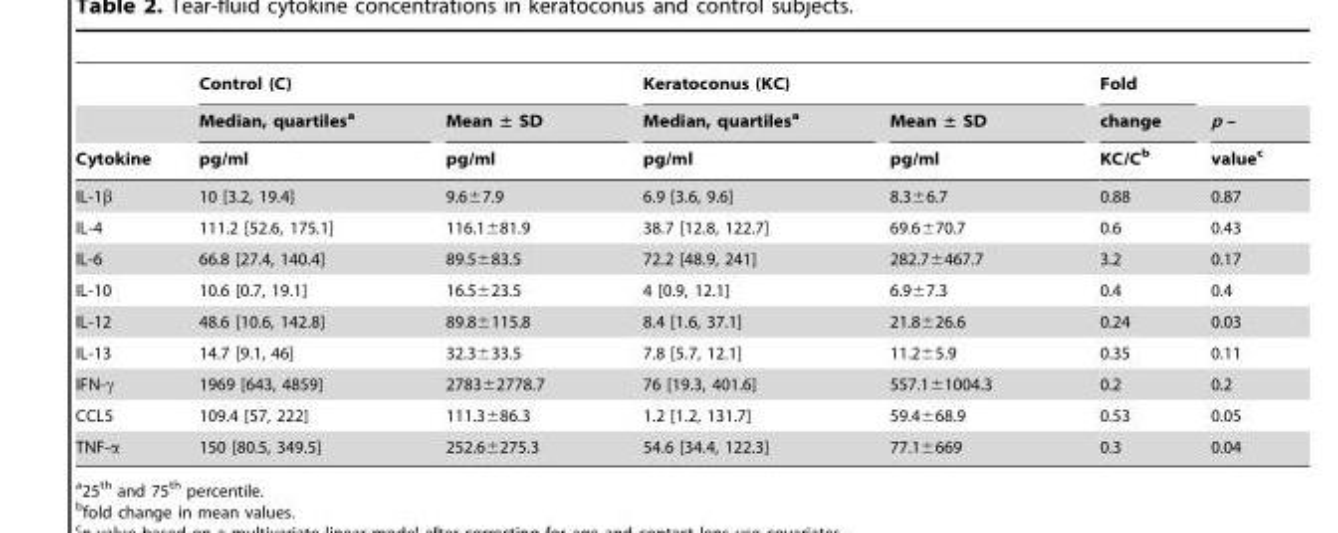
<table><thead><tr><td rowspan="3">Cytokine</td><td colspan="2">Control (C)</td><td colspan="2">Keratoconus (KC)</td><td rowspan="3">Fold change KC/C<sup>b</sup></td><td rowspan="3">p – value<sup>c</sup></td></tr><tr><td rowspan="2">Median, quartiles<sup>a</sup> pg/ml</td><td rowspan="2">Mean ± SD pg/ml</td><td rowspan="2">Median, quartiles<sup>a</sup> pg/ml</td><td rowspan="2">Mean ± SD pg/ml</td></tr><tr></tr></thead><tbody><tr><td>IL-1β</td><td>10 [3.2, 19.4]</td><td>9.6±7.9</td><td>6.9 [3.6, 9.6]</td><td>8.3±6.7</td><td>0.88</td><td>0.87</td></tr><tr><td>IL-4</td><td>111.2 [52.6, 175.1]</td><td>116.1±81.9</td><td>38.7 [12.8, 122.7]</td><td>69.6±70.7</td><td>0.6</td><td>0.43</td></tr><tr><td>IL-6</td><td>66.8 [27.4, 140.4]</td><td>89.5±83.5</td><td>72.2 [48.9, 241]</td><td>282.7±467.7</td><td>3.2</td><td>0.17</td></tr><tr><td>IL-10</td><td>10.6 [0.7, 19.1]</td><td>16.5±23.5</td><td>4 [0.9, 12.1]</td><td>6.9±7.3</td><td>0.4</td><td>0.4</td></tr><tr><td>IL-12</td><td>48.6 [10.6, 142.8]</td><td>89.8±115.8</td><td>8.4 [1.6, 37.1]</td><td>21.8±26.6</td><td>0.24</td><td>0.03</td></tr><tr><td>IL-13</td><td>14.7 [9.1, 46]</td><td>32.3±33.5</td><td>7.8 [5.7, 12.1]</td><td>11.2±5.9</td><td>0.35</td><td>0.11</td></tr><tr><td>IFN-γ</td><td>1969 [643, 4859]</td><td>2783±2778.7</td><td>76 [19.3, 401.6]</td><td>557.1±1004.3</td><td>0.2</td><td>0.2</td></tr><tr><td>CCL5</td><td>109.4 [57, 222]</td><td>111.3±86.3</td><td>1.2 [1.2, 131.7]</td><td>59.4±68.9</td><td>0.53</td><td>0.05</td></tr><tr><td>TNF-α</td><td>150 [80.5, 349.5]</td><td>252.6±275.3</td><td>54.6 [34.4, 122.3]</td><td>77.1±669</td><td>0.3</td><td>0.04</td></tr></tbody></table>